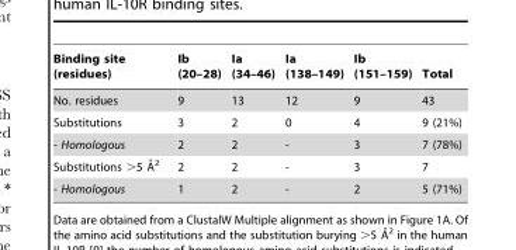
<table><thead><tr><td>Binding site (residues)</td><td>Ib (20–28)</td><td>Ia (34–46)</td><td>Ia (138–149)</td><td>Ib (151–159)</td><td>Total</td></tr></thead><tbody><tr><td>No. residues</td><td>9</td><td>13</td><td>12</td><td>9</td><td>43</td></tr><tr><td>Substitutions</td><td>3</td><td>2</td><td>0</td><td>4</td><td>9 (21%)</td></tr><tr><td>- Homologous</td><td>2</td><td>2</td><td>-</td><td>3</td><td>7 (78%)</td></tr><tr><td>Substitutions .5 A˚2</td><td>2</td><td>2</td><td>-</td><td>3</td><td>7</td></tr><tr><td>- Homologous</td><td>1</td><td>2</td><td>-</td><td>2</td><td>5 (71%)</td></tr></tbody></table>